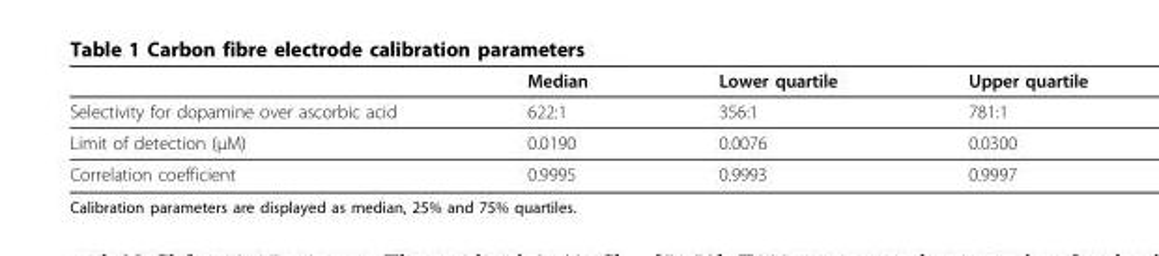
<table><thead><tr><td></td><td>Median</td><td>Lower quartile</td><td>Upper quartile</td></tr></thead><tbody><tr><td>Selectivity for dopamine over ascorbic acid</td><td>622:1</td><td>356:1</td><td>781:1</td></tr><tr><td>Limit of detection (μM)</td><td>0.0190</td><td>0.0076</td><td>0.0300</td></tr><tr><td>Correlation coefficient</td><td>0.9995</td><td>0.9993</td><td>0.9997</td></tr></tbody></table>